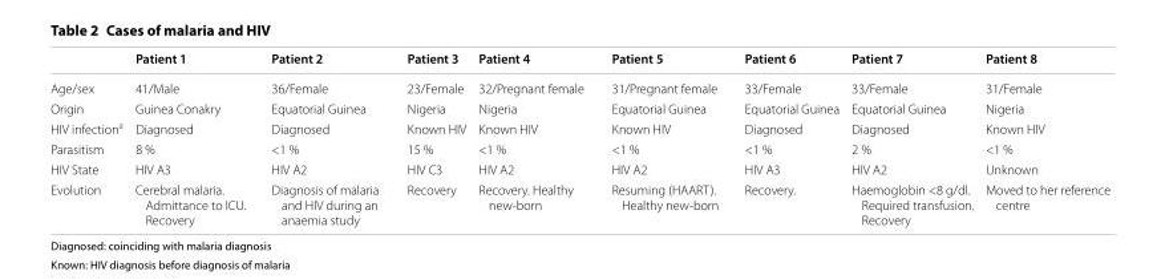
<table><thead><tr><td></td><td>Patient 1</td><td>Patient 2</td><td>Patient 3</td><td>Patient 4</td><td>Patient 5</td><td>Patient 6</td><td>Patient 7</td><td>Patient 8</td></tr></thead><tbody><tr><td>Age/sex</td><td>41/Male</td><td>36/Female</td><td>23/Female</td><td>32/Pregnant female</td><td>31/Pregnant female</td><td>33/Female</td><td>33/Female</td><td>31/Female</td></tr><tr><td>Origin</td><td>Guinea Conakry</td><td>Equatorial Guinea</td><td>Nigeria</td><td>Nigeria</td><td>Equatorial Guinea</td><td>Equatorial Guinea</td><td>Equatorial Guinea</td><td>Nigeria</td></tr><tr><td>HIV infection<sup>a</sup></td><td>Diagnosed</td><td>Diagnosed</td><td>Known HIV</td><td>Known HIV</td><td>Known HIV</td><td>Diagnosed</td><td>Diagnosed</td><td>Known HIV</td></tr><tr><td>Parasitism</td><td>8 %</td><td>&lt;1 %</td><td>15 %</td><td>&lt;1 %</td><td>&lt;1 %</td><td>&lt;1 %</td><td>2 %</td><td>&lt;1 %</td></tr><tr><td>HIV State</td><td>HIV A3</td><td>HIV A2</td><td>HIV C3</td><td>HIV A2</td><td>HIV A2</td><td>HIV A3</td><td>HIV A2</td><td>Unknown</td></tr><tr><td>Evolution</td><td>Cerebral malaria. Admittance to ICU. Recovery</td><td>Diagnosis of malaria and HIV during an anaemia study</td><td>Recovery</td><td>Recovery. Healthy new-born</td><td>Resuming (HAART). Healthy new-born</td><td>Recovery.</td><td>Haemoglobin &lt;8 g/dl. Required transfusion. Recovery</td><td>Moved to her reference centre</td></tr></tbody></table>